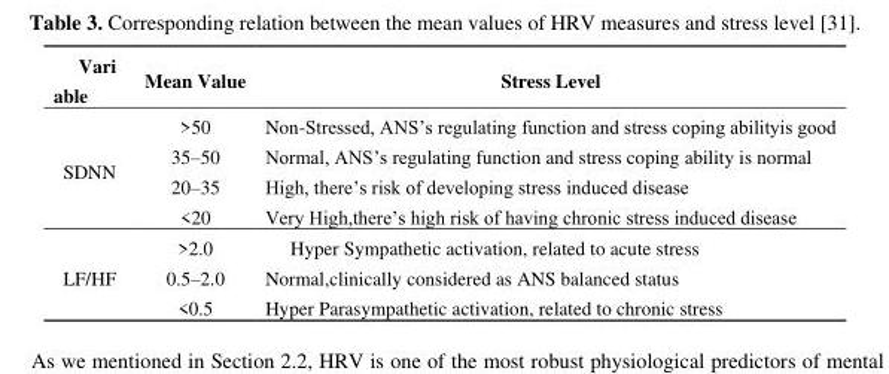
<table><thead><tr><td>Vari able</td><td>Mean Value</td><td>Stress Level</td></tr></thead><tbody><tr><td rowspan="4">SDNN</td><td>&gt;50</td><td>Non-Stressed, ANS’s regulating function and stress coping abilityis good</td></tr><tr><td>35–50</td><td>Normal, ANS’s regulating function and stress coping ability is normal</td></tr><tr><td>20–35</td><td>High, there’s risk of developing stress induced disease</td></tr><tr><td>&lt;20</td><td>Very High,there’s high risk of having chronic stress induced disease</td></tr><tr><td rowspan="3">LF/HF</td><td>&gt;2.0</td><td>Hyper Sympathetic activation, related to acute stress</td></tr><tr><td>0.5–2.0</td><td>Normal,clinically considered as ANS balanced status</td></tr><tr><td>&lt;0.5</td><td>Hyper Parasympathetic activation, related to chronic stress</td></tr></tbody></table>